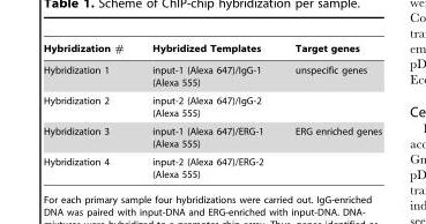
<table><thead><tr><td>Hybridization #</td><td>Hybridized Templates</td><td>Target genes</td></tr></thead><tbody><tr><td>Hybridization 1</td><td>input-1 (Alexa 647)/IgG-1 (Alexa 555)</td><td>unspecific genes</td></tr><tr><td>Hybridization 2</td><td>input-2 (Alexa 647)/IgG-2 (Alexa 555)</td><td></td></tr><tr><td>Hybridization 3</td><td>input-1 (Alexa 647)/ERG-1 (Alexa 555)</td><td>ERG enriched genes</td></tr><tr><td>Hybridization 4</td><td>input-2 (Alexa 647)/ERG-2 (Alexa 555)</td><td></td></tr></tbody></table>